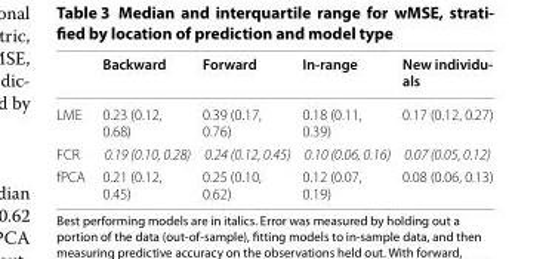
<table><thead><tr><td></td><td>Backward</td><td>Forward</td><td>In‑range</td><td>New individu‑ als</td></tr></thead><tbody><tr><td>LME</td><td>0.23 (0.12, 0.68)</td><td>0.39 (0.17, 0.76)</td><td>0.18 (0.11, 0.39)</td><td>0.17 (0.12, 0.27)</td></tr><tr><td>FCR</td><td>0.19 (0.10, 0.28)</td><td>0.24 (0.12, 0.45)</td><td>0.10 (0.06, 0.16)</td><td>0.07 (0.05, 0.12)</td></tr><tr><td>fPCA</td><td>0.21 (0.12, 0.45)</td><td>0.25 (0.10, 0.62)</td><td>0.12 (0.07, 0.19)</td><td>0.08 (0.06, 0.13)</td></tr></tbody></table>